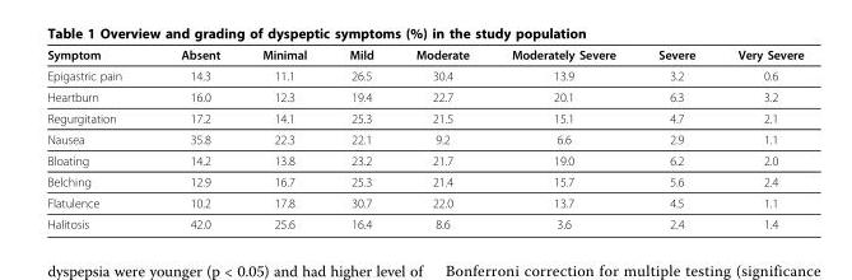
<table><thead><tr><td>Symptom</td><td>Absent</td><td>Minimal</td><td>Mild</td><td>Moderate</td><td>Moderately Severe</td><td>Severe</td><td>Very Severe</td></tr></thead><tbody><tr><td>Epigastric pain</td><td>14.3</td><td>11.1</td><td>26.5</td><td>30.4</td><td>13.9</td><td>3.2</td><td>0.6</td></tr><tr><td>Heartburn</td><td>16.0</td><td>12.3</td><td>19.4</td><td>22.7</td><td>20.1</td><td>6.3</td><td>3.2</td></tr><tr><td>Regurgitation</td><td>17.2</td><td>14.1</td><td>25.3</td><td>21.5</td><td>15.1</td><td>4.7</td><td>2.1</td></tr><tr><td>Nausea</td><td>35.8</td><td>22.3</td><td>22.1</td><td>9.2</td><td>6.6</td><td>2.9</td><td>1.1</td></tr><tr><td>Bloating</td><td>14.2</td><td>13.8</td><td>23.2</td><td>21.7</td><td>19.0</td><td>6.2</td><td>2.0</td></tr><tr><td>Belching</td><td>12.9</td><td>16.7</td><td>25.3</td><td>21.4</td><td>15.7</td><td>5.6</td><td>2.4</td></tr><tr><td>Flatulence</td><td>10.2</td><td>17.8</td><td>30.7</td><td>22.0</td><td>13.7</td><td>4.5</td><td>1.1</td></tr><tr><td>Halitosis</td><td>42.0</td><td>25.6</td><td>16.4</td><td>8.6</td><td>3.6</td><td>2.4</td><td>1.4</td></tr></tbody></table>